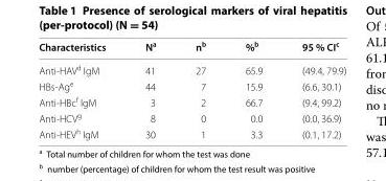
<table><thead><tr><td>Characteristics</td><td>N<sup>a</sup></td><td>n<sup>b</sup></td><td>%<sup>b</sup></td><td>95 % CI<sup>c</sup></td></tr></thead><tbody><tr><td>Anti-HAV<sup>d</sup> IgM</td><td>41</td><td>27</td><td>65.9</td><td>(49.4, 79.9)</td></tr><tr><td>HBs-Ag<sup>e</sup></td><td>44</td><td>7</td><td>15.9</td><td>(6.6, 30.1)</td></tr><tr><td>Anti-HBc<sup>f</sup> IgM</td><td>3</td><td>2</td><td>66.7</td><td>(9.4, 99.2)</td></tr><tr><td>Anti-HCV<sup>g</sup></td><td>8</td><td>0</td><td>0.0</td><td>(0.0, 36.9)</td></tr><tr><td>Anti-HEV<sup>h</sup> IgM</td><td>30</td><td>1</td><td>3.3</td><td>(0.1, 17.2)</td></tr></tbody></table>